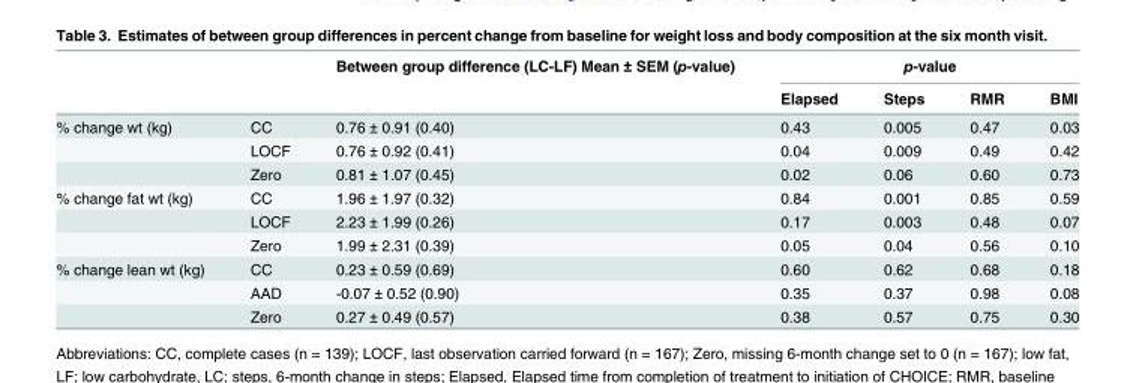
<table><thead><tr><td rowspan="2"></td><td rowspan="2"></td><td rowspan="2">Between group difference (LC-LF) Mean ± SEM (p-value)</td><td colspan="4">p-value</td></tr><tr><td>Elapsed</td><td>Steps</td><td>RMR</td><td>BMI</td></tr></thead><tbody><tr><td rowspan="3">% change wt (kg)</td><td>CC</td><td>0.76 ± 0.91 (0.40)</td><td>0.43</td><td>0.005</td><td>0.47</td><td>0.03</td></tr><tr><td>LOCF</td><td>0.76 ± 0.92 (0.41)</td><td>0.04</td><td>0.009</td><td>0.49</td><td>0.42</td></tr><tr><td>Zero</td><td>0.81 ± 1.07 (0.45)</td><td>0.02</td><td>0.06</td><td>0.60</td><td>0.73</td></tr><tr><td rowspan="3">% change fat wt (kg)</td><td>CC</td><td>1.96 ± 1.97 (0.32)</td><td>0.84</td><td>0.001</td><td>0.85</td><td>0.59</td></tr><tr><td>LOCF</td><td>2.23 ± 1.99 (0.26)</td><td>0.17</td><td>0.003</td><td>0.48</td><td>0.07</td></tr><tr><td>Zero</td><td>1.99 ± 2.31 (0.39)</td><td>0.05</td><td>0.04</td><td>0.56</td><td>0.10</td></tr><tr><td rowspan="3">% change lean wt (kg)</td><td>CC</td><td>0.23 ± 0.59 (0.69)</td><td>0.60</td><td>0.62</td><td>0.68</td><td>0.18</td></tr><tr><td>AAD</td><td>-0.07 ± 0.52 (0.90)</td><td>0.35</td><td>0.37</td><td>0.98</td><td>0.08</td></tr><tr><td>Zero</td><td>0.27 ± 0.49 (0.57)</td><td>0.38</td><td>0.57</td><td>0.75</td><td>0.30</td></tr></tbody></table>